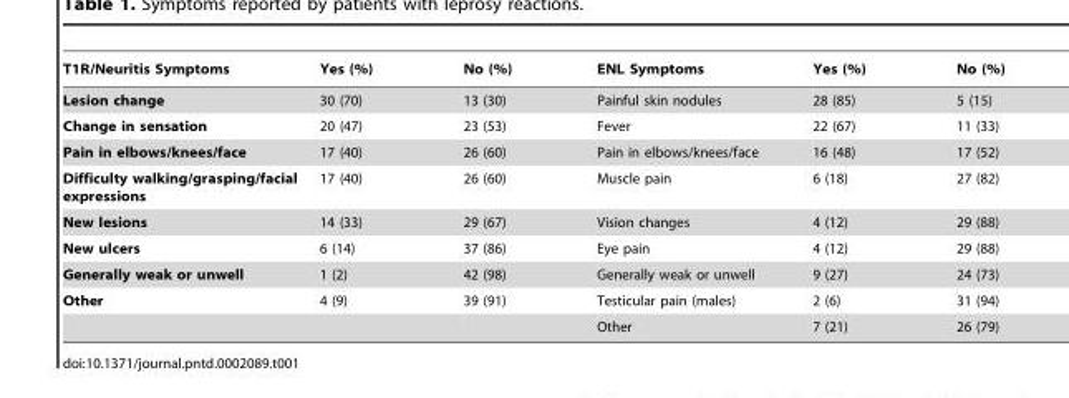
<table><thead><tr><td>T1R/Neuritis Symptoms</td><td>Yes (%)</td><td>No (%)</td><td>ENL Symptoms</td><td>Yes (%)</td><td>No (%)</td></tr></thead><tbody><tr><td>Lesion change</td><td>30 (70)</td><td>13 (30)</td><td>Painful skin nodules</td><td>28 (85)</td><td>5 (15)</td></tr><tr><td>Change in sensation</td><td>20 (47)</td><td>23 (53)</td><td>Fever</td><td>22 (67)</td><td>11 (33)</td></tr><tr><td>Pain in elbows/knees/face</td><td>17 (40)</td><td>26 (60)</td><td>Pain in elbows/knees/face</td><td>16 (48)</td><td>17 (52)</td></tr><tr><td>Difficulty walking/grasping/facial expressions</td><td>17 (40)</td><td>26 (60)</td><td>Muscle pain</td><td>6 (18)</td><td>27 (82)</td></tr><tr><td>New lesions</td><td>14 (33)</td><td>29 (67)</td><td>Vision changes</td><td>4 (12)</td><td>29 (88)</td></tr><tr><td>New ulcers</td><td>6 (14)</td><td>37 (86)</td><td>Eye pain</td><td>4 (12)</td><td>29 (88)</td></tr><tr><td>Generally weak or unwell</td><td>1 (2)</td><td>42 (98)</td><td>Generally weak or unwell</td><td>9 (27)</td><td>24 (73)</td></tr><tr><td rowspan="2">Other</td><td>4 (9)</td><td>39 (91)</td><td>Testicular pain (males)</td><td>2 (6)</td><td>31 (94)</td></tr><tr><td></td><td></td><td>Other</td><td>7 (21)</td><td>26 (79)</td></tr></tbody></table>